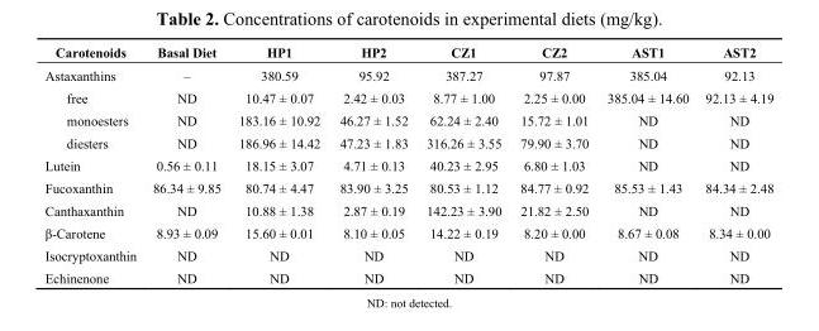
<table><thead><tr><td>Carotenoids</td><td>Basal Diet</td><td>HP1</td><td>HP2</td><td>CZ1</td><td>CZ2</td><td>AST1</td><td>AST2</td></tr></thead><tbody><tr><td>Astaxanthins</td><td>–</td><td>380.59</td><td>95.92</td><td>387.27</td><td>97.87</td><td>385.04</td><td>92.13</td></tr><tr><td>free</td><td>ND</td><td>10.47 ± 0.07</td><td>2.42 ± 0.03</td><td>8.77 ± 1.00</td><td>2.25 ± 0.00</td><td>385.04 ± 14.60</td><td>92.13 ± 4.19</td></tr><tr><td>monoesters</td><td>ND</td><td>183.16 ± 10.92</td><td>46.27 ± 1.52</td><td>62.24 ± 2.40</td><td>15.72 ± 1.01</td><td>ND</td><td>ND</td></tr><tr><td>diesters</td><td>ND</td><td>186.96 ± 14.42</td><td>47.23 ± 1.83</td><td>316.26 ± 3.55</td><td>79.90 ± 3.70</td><td>ND</td><td>ND</td></tr><tr><td>Lutein</td><td>0.56 ± 0.11</td><td>18.15 ± 3.07</td><td>4.71 ± 0.13</td><td>40.23 ± 2.95</td><td>6.80 ± 1.03</td><td>ND</td><td>ND</td></tr><tr><td>Fucoxanthin</td><td>86.34 ± 9.85</td><td>80.74 ± 4.47</td><td>83.90 ± 3.25</td><td>80.53 ± 1.12</td><td>84.77 ± 0.92</td><td>85.53 ± 1.43</td><td>84.34 ± 2.48</td></tr><tr><td>Canthaxanthin</td><td>ND</td><td>10.88 ± 1.38</td><td>2.87 ± 0.19</td><td>142.23 ± 3.90</td><td>21.82 ± 2.50</td><td>ND</td><td>ND</td></tr><tr><td>β-Carotene</td><td>8.93 ± 0.09</td><td>15.60 ± 0.01</td><td>8.10 ± 0.05</td><td>14.22 ± 0.19</td><td>8.20 ± 0.00</td><td>8.67 ± 0.08</td><td>8.34 ± 0.00</td></tr><tr><td>Isocryptoxanthin</td><td>ND</td><td>ND</td><td>ND</td><td>ND</td><td>ND</td><td>ND</td><td>ND</td></tr><tr><td>Echinenone</td><td>ND</td><td>ND</td><td>ND</td><td>ND</td><td>ND</td><td>ND</td><td>ND</td></tr></tbody></table>